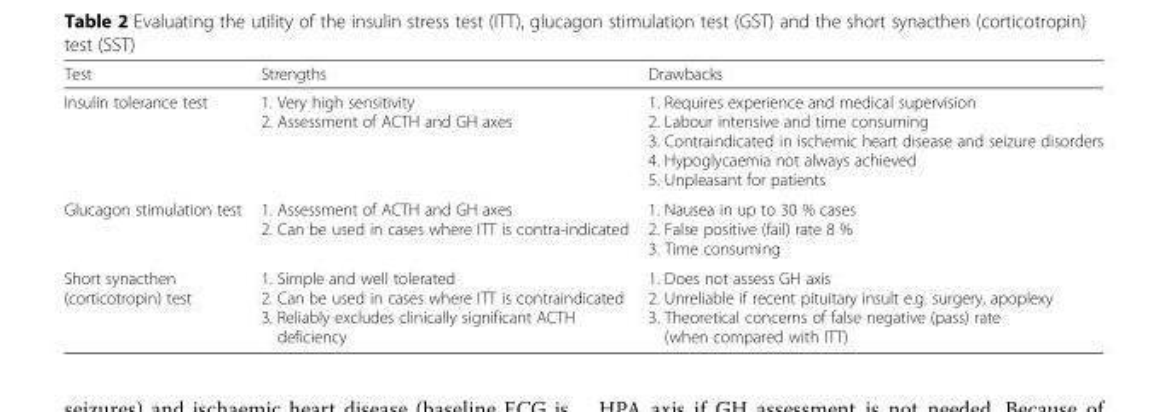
<table><thead><tr><td>Test</td><td>Strengths</td><td>Drawbacks</td></tr></thead><tbody><tr><td>Insulin tolerance test</td><td>1. Very high sensitivity 2. Assessment of ACTH and GH axes</td><td>1. Requires experience and medical supervision 2. Labour intensive and time consuming 3. Contraindicated in ischemic heart disease and seizure disorders 4. Hypoglycaemia not always achieved 5. Unpleasant for patients</td></tr><tr><td>Glucagon stimulation test</td><td>1. Assessment of ACTH and GH axes 2. Can be used in cases where ITT is contra-indicated</td><td>1. Nausea in up to 30 % cases 2. False positive (fail) rate 8 % 3. Time consuming</td></tr><tr><td>Short synacthen (corticotropin) test</td><td>1. Simple and well tolerated 2. Can be used in cases where ITT is contraindicated 3. Reliably excludes clinically significant ACTH deficiency</td><td>1. Does not assess GH axis 2. Unreliable if recent pituitary insult e.g. surgery, apoplexy 3. Theoretical concerns of false negative (pass) rate (when compared with ITT)</td></tr></tbody></table>